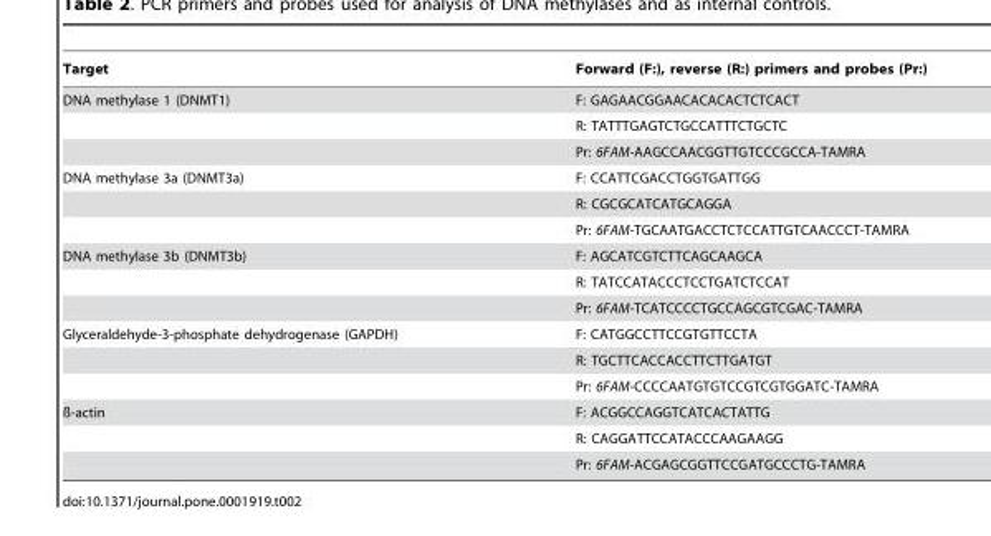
<table><thead><tr><td>Target</td><td>Forward (F:), reverse (R:) primers and probes (Pr:)</td></tr></thead><tbody><tr><td rowspan="3">DNA methylase 1 (DNMT1)</td><td>F: GAGAACGGAACACACACTCTCACT</td></tr><tr><td>R: TATTTGAGTCTGCCATTTCTGCTC</td></tr><tr><td>Pr: 6FAM-AAGCCAACGGTTGTCCCGCCA-TAMRA</td></tr><tr><td rowspan="3">DNA methylase 3a (DNMT3a)</td><td>F: CCATTCGACCTGGTGATTGG</td></tr><tr><td>R: CGCGCATCATGCAGGA</td></tr><tr><td>Pr: 6FAM-TGCAATGACCTCTCCATTGTCAACCCT-TAMRA</td></tr><tr><td rowspan="3">DNA methylase 3b (DNMT3b)</td><td>F: AGCATCGTCTTCAGCAAGCA</td></tr><tr><td>R: TATCCATACCCTCCTGATCTCCAT</td></tr><tr><td>Pr: 6FAM-TCATCCCCTGCCAGCGTCGAC-TAMRA</td></tr><tr><td rowspan="3">Glyceraldehyde-3-phosphate dehydrogenase (GAPDH)</td><td>F: CATGGCCTTCCGTGTTCCTA</td></tr><tr><td>R: TGCTTCACCACCTTCTTGATGT</td></tr><tr><td>Pr: 6FAM-CCCCAATGTGTCCGTCGTGGATC-TAMRA</td></tr><tr><td rowspan="3">ß-actin</td><td>F: ACGGCCAGGTCATCACTATTG</td></tr><tr><td>R: CAGGATTCCATACCCAAGAAGG</td></tr><tr><td>Pr: 6FAM-ACGAGCGGTTCCGATGCCCTG-TAMRA</td></tr></tbody></table>